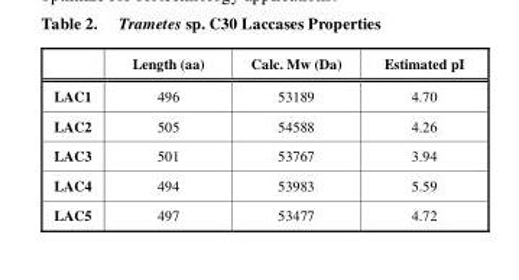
<table><thead><tr><td></td><td>Length (aa)</td><td>Calc. Mw (Da)</td><td>Estimated pI</td></tr></thead><tbody><tr><td>LAC1</td><td>496</td><td>53189</td><td>4.70</td></tr><tr><td>LAC2</td><td>505</td><td>54588</td><td>4.26</td></tr><tr><td>LAC3</td><td>501</td><td>53767</td><td>3.94</td></tr><tr><td>LAC4</td><td>494</td><td>53983</td><td>5.59</td></tr><tr><td>LAC5</td><td>497</td><td>53477</td><td>4.72</td></tr></tbody></table>